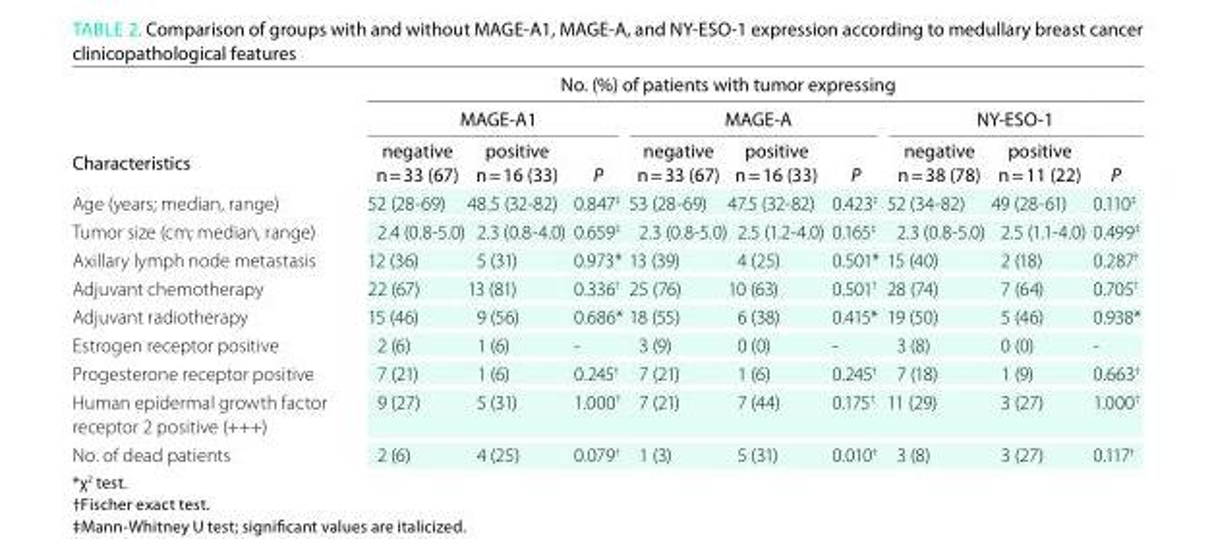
<table><thead><tr><td rowspan="3">Characteristics</td><td colspan="8">No. (%) of patients with tumor expressing</td><td rowspan="3">P</td></tr><tr><td colspan="2">MAGe-A1</td><td rowspan="2">P</td><td colspan="2">MAGe-A</td><td rowspan="2">P</td><td colspan="2">NY-eSo-1</td></tr><tr><td>negative n = 33 (67)</td><td>positive n = 16 (33)</td><td>negative n = 33 (67)</td><td>positive n = 16 (33)</td><td>negative n = 38 (78)</td><td>positive n = 11 (22)</td></tr></thead><tbody><tr><td>Age (years; median, range)</td><td>52 (28-69)</td><td>48.5 (32-82)</td><td>0.847<sup>‡</sup></td><td>53 (28-69)</td><td>47.5 (32-82)</td><td>0.423<sup>‡</sup></td><td>52 (34-82)</td><td>49 (28-61)</td><td>0.110<sup>‡</sup></td></tr><tr><td>Tumor size (cm; median, range)</td><td>2.4 (0.8-5.0)</td><td>2.3 (0.8-4.0)</td><td>0.659<sup>‡</sup></td><td>2.3 (0.8-5.0)</td><td>2.5 (1.2-4.0)</td><td>0.165<sup>‡</sup></td><td>2.3 (0.8-5.0)</td><td>2.5 (1.1-4.0)</td><td>0.499<sup>‡</sup></td></tr><tr><td>Axillary lymph node metastasis</td><td>12 (36)</td><td>5 (31)</td><td>0.973*</td><td>13 (39)</td><td>4 (25)</td><td>0.501*</td><td>15 (40)</td><td>2 (18)</td><td>0.287<sup>†</sup></td></tr><tr><td>Adjuvant chemotherapy</td><td>22 (67)</td><td>13 (81)</td><td>0.336<sup>†</sup></td><td>25 (76)</td><td>10 (63)</td><td>0.501<sup>†</sup></td><td>28 (74)</td><td>7 (64)</td><td>0.705<sup>†</sup></td></tr><tr><td>Adjuvant radiotherapy</td><td>15 (46)</td><td>9 (56)</td><td>0.686*</td><td>18 (55)</td><td>6 (38)</td><td>0.415*</td><td>19 (50)</td><td>5 (46)</td><td>0.938*</td></tr><tr><td>Estrogen receptor positive</td><td>2 (6)</td><td>1 (6)</td><td>-</td><td>3 (9)</td><td>0 (0)</td><td>-</td><td>3 (8)</td><td>0 (0)</td><td>-</td></tr><tr><td>Progesterone receptor positive</td><td>7 (21)</td><td>1 (6)</td><td>0.245<sup>†</sup></td><td>7 (21)</td><td>1 (6)</td><td>0.245<sup>†</sup></td><td>7 (18)</td><td>1 (9)</td><td>0.663<sup>†</sup></td></tr><tr><td>Human epidermal growth factor receptor 2 positive (+++)</td><td>9 (27)</td><td>5 (31)</td><td>1.000<sup>†</sup></td><td>7 (21)</td><td>7 (44)</td><td>0.175<sup>†</sup></td><td>11 (29)</td><td>3 (27)</td><td>1.000<sup>†</sup></td></tr><tr><td>No. of dead patients</td><td>2 (6)</td><td>4 (25)</td><td>0.079<sup>†</sup></td><td>1 (3)</td><td>5 (31)</td><td>0.010<sup>†</sup></td><td>3 (8)</td><td>3 (27)</td><td>0.117<sup>†</sup></td></tr></tbody></table>